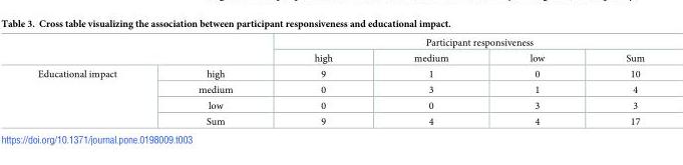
<table><thead><tr><td rowspan="2"></td><td rowspan="2"></td><td colspan="4">Participant responsiveness</td></tr><tr><td>high</td><td>medium</td><td>low</td><td>Sum</td></tr></thead><tbody><tr><td rowspan="4">Educational impact</td><td>high</td><td>9</td><td>1</td><td>0</td><td>10</td></tr><tr><td>medium</td><td>0</td><td>3</td><td>1</td><td>4</td></tr><tr><td>low</td><td>0</td><td>0</td><td>3</td><td>3</td></tr><tr><td>Sum</td><td>9</td><td>4</td><td>4</td><td>17</td></tr></tbody></table>